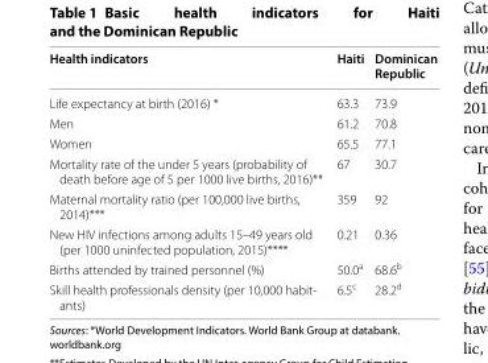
<table><thead><tr><td>Health indicators</td><td>Haiti</td><td>Dominican Republic</td></tr></thead><tbody><tr><td>Life expectancy at birth (2016) *</td><td>63.3</td><td>73.9</td></tr><tr><td>Men</td><td>61.2</td><td>70.8</td></tr><tr><td>Women</td><td>65.5</td><td>77.1</td></tr><tr><td>Mortality rate of the under 5 years (probability of death before age of 5 per 1000 live births, 2016)**</td><td>67</td><td>30.7</td></tr><tr><td>Maternal mortality ratio (per 100,000 live births, 2014)***</td><td>359</td><td>92</td></tr><tr><td>New HIV infections among adults 15–49 years old (per 1000 uninfected population, 2015)****</td><td>0.21</td><td>0.36</td></tr><tr><td>Births attended by trained personnel (%)</td><td>50.0<sup>a</sup></td><td>68.6<sup>b</sup></td></tr><tr><td>Skill health professionals density (per 10,000 habit- ants)</td><td>6.5<sup>c</sup></td><td>28.2<sup>d</sup></td></tr></tbody></table>